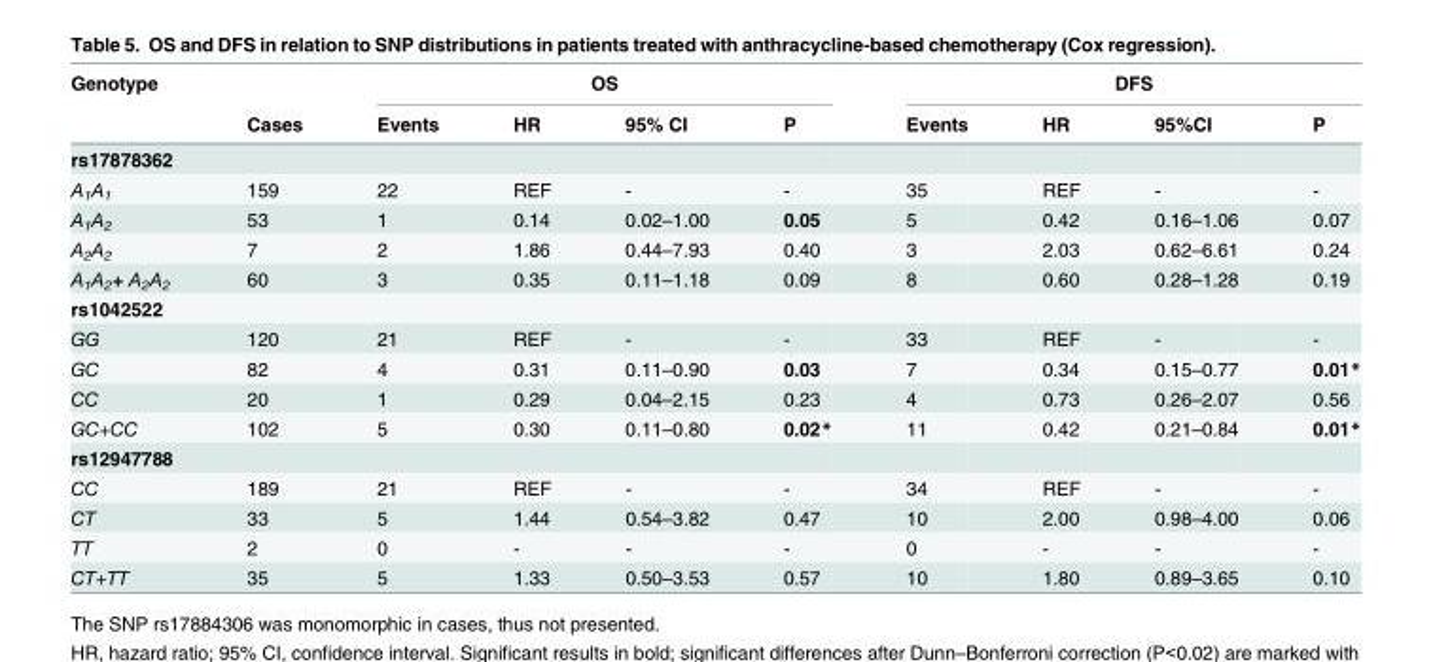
<table><thead><tr><td rowspan="2">Genotype</td><td rowspan="2">Cases</td><td colspan="4">OS</td><td colspan="4">DFS</td></tr><tr><td>Events</td><td>HR</td><td>95% CI</td><td>P</td><td>Events</td><td>HR</td><td>95%CI</td><td>P</td></tr></thead><tbody><tr><td colspan="10">rs17878362</td></tr><tr><td>A<sub>1</sub>A<sub>1</sub></td><td>159</td><td>22</td><td>REF</td><td>-</td><td>-</td><td>35</td><td>REF</td><td>-</td><td>-</td></tr><tr><td>A<sub>1</sub>A<sub>2</sub></td><td>53</td><td>1</td><td>0.14</td><td>0.02–1.00</td><td>0.05</td><td>5</td><td>0.42</td><td>0.16–1.06</td><td>0.07</td></tr><tr><td>A<sub>2</sub>A<sub>2</sub></td><td>7</td><td>2</td><td>1.86</td><td>0.44–7.93</td><td>0.40</td><td>3</td><td>2.03</td><td>0.62–6.61</td><td>0.24</td></tr><tr><td>A<sub>1</sub>A<sub>2</sub>+ A<sub>2</sub>A<sub>2</sub></td><td>60</td><td>3</td><td>0.35</td><td>0.11–1.18</td><td>0.09</td><td>8</td><td>0.60</td><td>0.28–1.28</td><td>0.19</td></tr><tr><td colspan="10">rs1042522</td></tr><tr><td>GG</td><td>120</td><td>21</td><td>REF</td><td>-</td><td>-</td><td>33</td><td>REF</td><td>-</td><td>-</td></tr><tr><td>GC</td><td>82</td><td>4</td><td>0.31</td><td>0.11–0.90</td><td>0.03</td><td>7</td><td>0.34</td><td>0.15–0.77</td><td>0.01*</td></tr><tr><td>CC</td><td>20</td><td>1</td><td>0.29</td><td>0.04–2.15</td><td>0.23</td><td>4</td><td>0.73</td><td>0.26–2.07</td><td>0.56</td></tr><tr><td>GC+CC</td><td>102</td><td>5</td><td>0.30</td><td>0.11–0.80</td><td>0.02*</td><td>11</td><td>0.42</td><td>0.21–0.84</td><td>0.01*</td></tr><tr><td colspan="10">rs12947788</td></tr><tr><td>CC</td><td>189</td><td>21</td><td>REF</td><td>-</td><td>-</td><td>34</td><td>REF</td><td>-</td><td>-</td></tr><tr><td>CT</td><td>33</td><td>5</td><td>1.44</td><td>0.54–3.82</td><td>0.47</td><td>10</td><td>2.00</td><td>0.98–4.00</td><td>0.06</td></tr><tr><td>TT</td><td>2</td><td>0</td><td>-</td><td>-</td><td>-</td><td>0</td><td>-</td><td>-</td><td>-</td></tr><tr><td>CT+TT</td><td>35</td><td>5</td><td>1.33</td><td>0.50–3.53</td><td>0.57</td><td>10</td><td>1.80</td><td>0.89–3.65</td><td>0.10</td></tr></tbody></table>